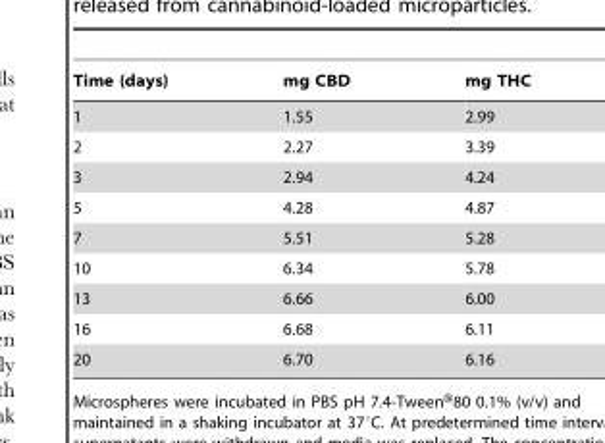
<table><thead><tr><td>Time (days)</td><td>mg CBD</td><td>mg THC</td></tr></thead><tbody><tr><td>1</td><td>1.55</td><td>2.99</td></tr><tr><td>2</td><td>2.27</td><td>3.39</td></tr><tr><td>3</td><td>2.94</td><td>4.24</td></tr><tr><td>5</td><td>4.28</td><td>4.87</td></tr><tr><td>7</td><td>5.51</td><td>5.28</td></tr><tr><td>10</td><td>6.34</td><td>5.78</td></tr><tr><td>13</td><td>6.66</td><td>6.00</td></tr><tr><td>16</td><td>6.68</td><td>6.11</td></tr><tr><td>20</td><td>6.70</td><td>6.16</td></tr></tbody></table>